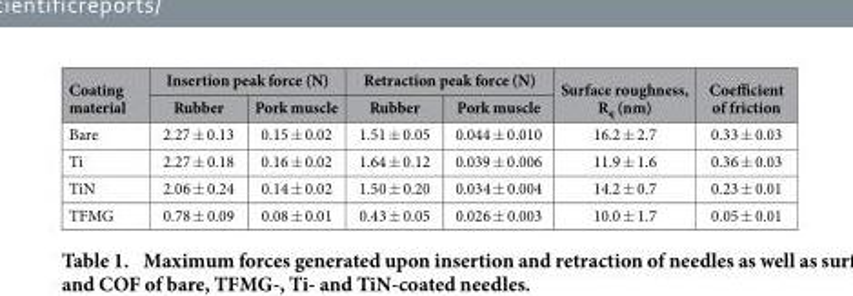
<table><thead><tr><td rowspan="2">Coating material</td><td colspan="2">Insertion peak force (N)</td><td colspan="2">Retraction peak force (N)</td><td rowspan="2">Surface roughness, R<sub>q</sub> (nm)</td><td rowspan="2">Coefficient of friction</td></tr><tr><td>Rubber</td><td>Pork muscle</td><td>Rubber</td><td>Pork muscle</td></tr></thead><tbody><tr><td>Bare</td><td>2.27 ± 0.13</td><td>0.15 ± 0.02</td><td>1.51 ± 0.05</td><td>0.044 ± 0.010</td><td>16.2 ± 2.7</td><td>0.33 ± 0.03</td></tr><tr><td>Ti</td><td>2.27 ± 0.18</td><td>0.16 ± 0.02</td><td>1.64 ± 0.12</td><td>0.039 ± 0.006</td><td>11.9 ± 1.6</td><td>0.36 ± 0.03</td></tr><tr><td>TiN</td><td>2.06 ± 0.24</td><td>0.14 ± 0.02</td><td>1.50 ± 0.20</td><td>0.034 ± 0.004</td><td>14.2 ± 0.7</td><td>0.23 ± 0.01</td></tr><tr><td>TFMG</td><td>0.78 ± 0.09</td><td>0.08 ± 0.01</td><td>0.43 ± 0.05</td><td>0.026 ± 0.003</td><td>10.0 ± 1.7</td><td>0.05 ± 0.01</td></tr></tbody></table>